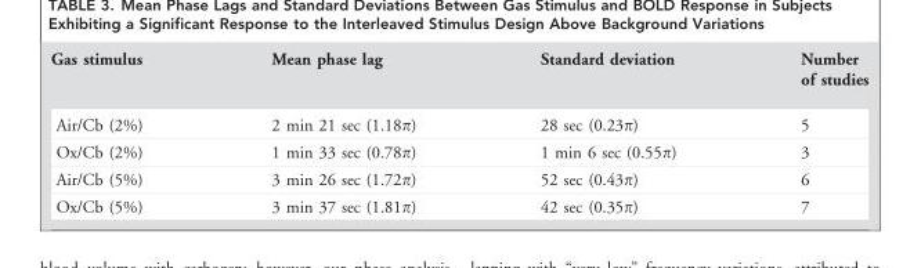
<table><thead><tr><td>Gas stimulus</td><td>Mean phase lag</td><td>Standard deviation</td><td>Number of studies</td></tr></thead><tbody><tr><td>Air/Cb (2%)</td><td>2 min 21 sec (1.18π)</td><td>28 sec (0.23π)</td><td>5</td></tr><tr><td>Ox/Cb (2%)</td><td>1 min 33 sec (0.78π)</td><td>1 min 6 sec (0.55π)</td><td>3</td></tr><tr><td>Air/Cb (5%)</td><td>3 min 26 sec (1.72π)</td><td>52 sec (0.43π)</td><td>6</td></tr><tr><td>Ox/Cb (5%)</td><td>3 min 37 sec (1.81π)</td><td>42 sec (0.35π)</td><td>7</td></tr></tbody></table>